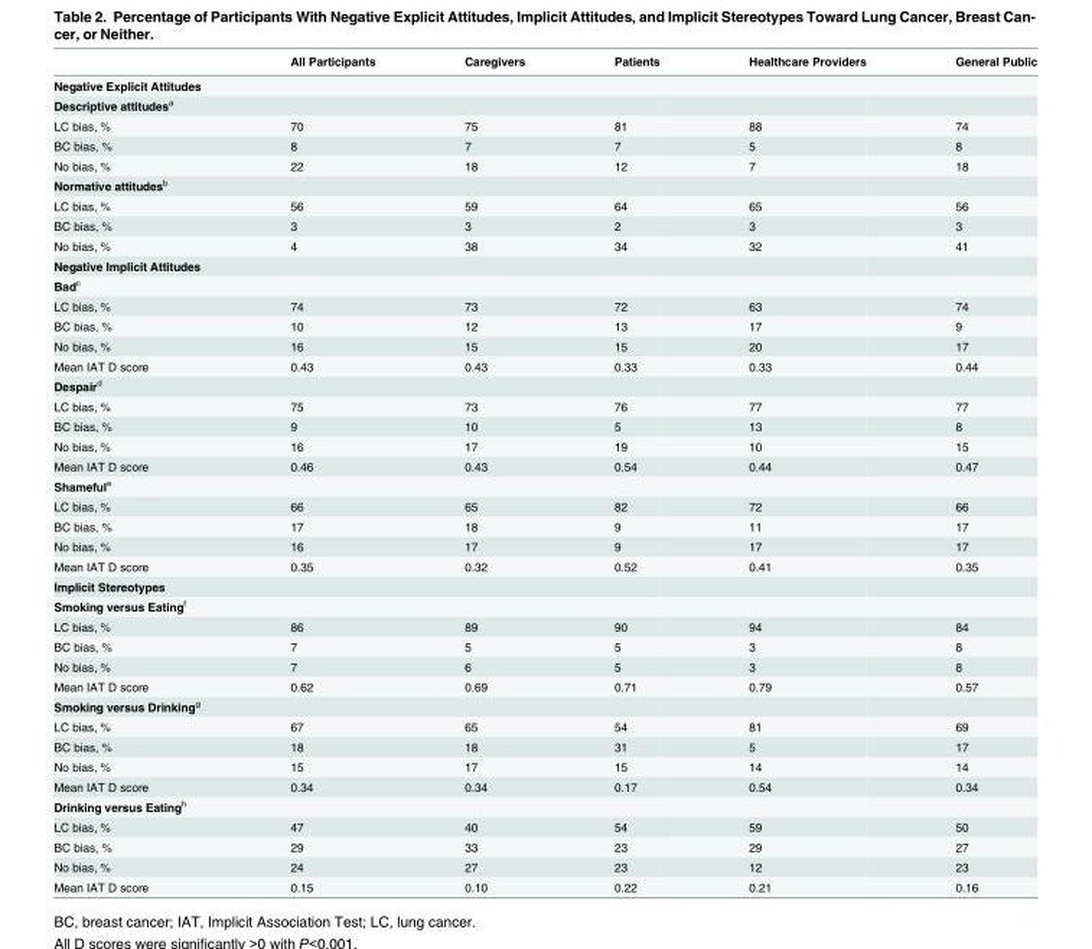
<table><thead><tr><td></td><td>All Participants</td><td>Caregivers</td><td>Patients</td><td>Healthcare Providers</td><td>General Public</td></tr></thead><tbody><tr><td colspan="6">Negative Explicit Attitudes</td></tr><tr><td colspan="6">Descriptive attitudes<sup>a</sup></td></tr><tr><td>LC bias, %</td><td>70</td><td>75</td><td>81</td><td>88</td><td>74</td></tr><tr><td>BC bias, %</td><td>8</td><td>7</td><td>7</td><td>5</td><td>8</td></tr><tr><td>No bias, %</td><td>22</td><td>18</td><td>12</td><td>7</td><td>18</td></tr><tr><td colspan="6">Normative attitudes<sup>b</sup></td></tr><tr><td>LC bias, %</td><td>56</td><td>59</td><td>64</td><td>65</td><td>56</td></tr><tr><td>BC bias, %</td><td>3</td><td>3</td><td>2</td><td>3</td><td>3</td></tr><tr><td>No bias, %</td><td>4</td><td>38</td><td>34</td><td>32</td><td>41</td></tr><tr><td colspan="6">Negative Implicit Attitudes</td></tr><tr><td colspan="6">Bad<sup>c</sup></td></tr><tr><td>LC bias, %</td><td>74</td><td>73</td><td>72</td><td>63</td><td>74</td></tr><tr><td>BC bias, %</td><td>10</td><td>12</td><td>13</td><td>17</td><td>9</td></tr><tr><td>No bias, %</td><td>16</td><td>15</td><td>15</td><td>20</td><td>17</td></tr><tr><td>Mean IAT D score</td><td>0.43</td><td>0.43</td><td>0.33</td><td>0.33</td><td>0.44</td></tr><tr><td colspan="6">Despair<sup>d</sup></td></tr><tr><td>LC bias, %</td><td>75</td><td>73</td><td>76</td><td>77</td><td>77</td></tr><tr><td>BC bias, %</td><td>9</td><td>10</td><td>5</td><td>13</td><td>8</td></tr><tr><td>No bias, %</td><td>16</td><td>17</td><td>19</td><td>10</td><td>15</td></tr><tr><td>Mean IAT D score</td><td>0.46</td><td>0.43</td><td>0.54</td><td>0.44</td><td>0.47</td></tr><tr><td colspan="6">Shameful<sup>e</sup></td></tr><tr><td>LC bias, %</td><td>66</td><td>65</td><td>82</td><td>72</td><td>66</td></tr><tr><td>BC bias, %</td><td>17</td><td>18</td><td>9</td><td>11</td><td>17</td></tr><tr><td>No bias, %</td><td>16</td><td>17</td><td>9</td><td>17</td><td>17</td></tr><tr><td>Mean IAT D score</td><td>0.35</td><td>0.32</td><td>0.52</td><td>0.41</td><td>0.35</td></tr><tr><td colspan="6">Implicit Stereotypes</td></tr><tr><td colspan="6">Smoking versus Eating<sup>f</sup></td></tr><tr><td>LC bias, %</td><td>86</td><td>89</td><td>90</td><td>94</td><td>84</td></tr><tr><td>BC bias, %</td><td>7</td><td>5</td><td>5</td><td>3</td><td>8</td></tr><tr><td>No bias, %</td><td>7</td><td>6</td><td>5</td><td>3</td><td>8</td></tr><tr><td>Mean IAT D score</td><td>0.62</td><td>0.69</td><td>0.71</td><td>0.79</td><td>0.57</td></tr><tr><td colspan="6">Smoking versus Drinking<sup>g</sup></td></tr><tr><td>LC bias, %</td><td>67</td><td>65</td><td>54</td><td>81</td><td>69</td></tr><tr><td>BC bias, %</td><td>18</td><td>18</td><td>31</td><td>5</td><td>17</td></tr><tr><td>No bias, %</td><td>15</td><td>17</td><td>15</td><td>14</td><td>14</td></tr><tr><td>Mean IAT D score</td><td>0.34</td><td>0.34</td><td>0.17</td><td>0.54</td><td>0.34</td></tr><tr><td colspan="6">Drinking versus Eating<sup>h</sup></td></tr><tr><td>LC bias, %</td><td>47</td><td>40</td><td>54</td><td>59</td><td>50</td></tr><tr><td>BC bias, %</td><td>29</td><td>33</td><td>23</td><td>29</td><td>27</td></tr><tr><td>No bias, %</td><td>24</td><td>27</td><td>23</td><td>12</td><td>23</td></tr><tr><td>Mean IAT D score</td><td>0.15</td><td>0.10</td><td>0.22</td><td>0.21</td><td>0.16</td></tr></tbody></table>